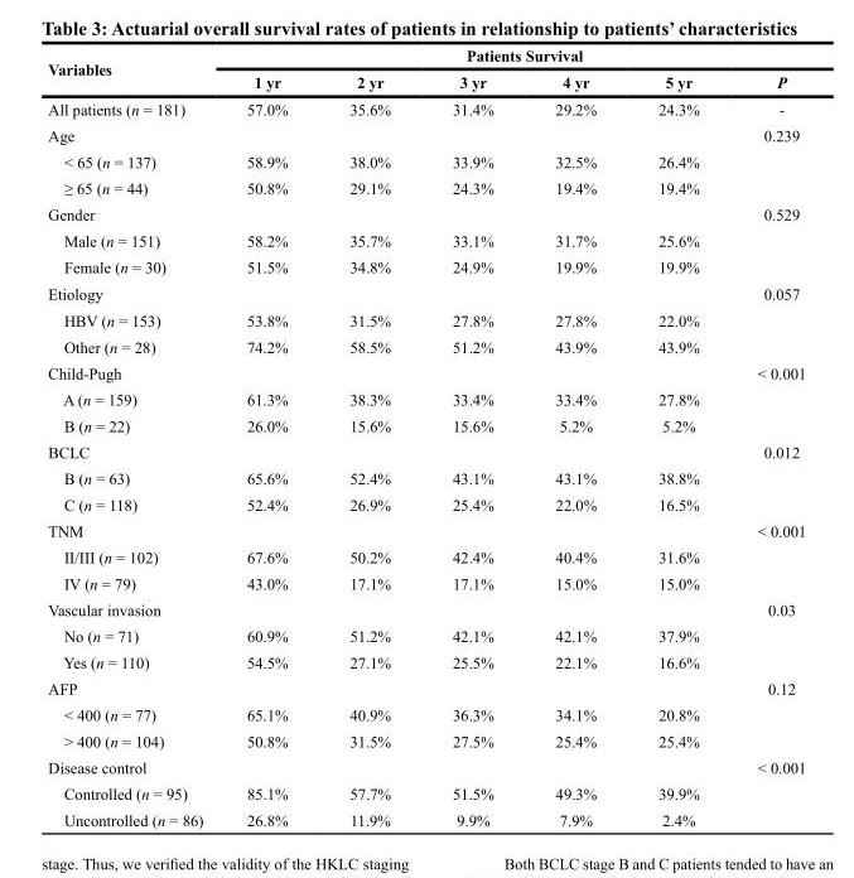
<table><thead><tr><td rowspan="2">Variables</td><td colspan="6">Patients Survival</td></tr><tr><td>1 yr</td><td>2 yr</td><td>3 yr</td><td>4 yr</td><td>5 yr</td><td>P</td></tr></thead><tbody><tr><td>All patients (n = 181)</td><td>57.0%</td><td>35.6%</td><td>31.4%</td><td>29.2%</td><td>24.3%</td><td>-</td></tr><tr><td>Age</td><td></td><td></td><td></td><td></td><td></td><td>0.239</td></tr><tr><td>&lt; 65 (n = 137)</td><td>58.9%</td><td>38.0%</td><td>33.9%</td><td>32.5%</td><td>26.4%</td><td></td></tr><tr><td>≥ 65 (n = 44)</td><td>50.8%</td><td>29.1%</td><td>24.3%</td><td>19.4%</td><td>19.4%</td><td></td></tr><tr><td>Gender</td><td></td><td></td><td></td><td></td><td></td><td>0.529</td></tr><tr><td>Male (n = 151)</td><td>58.2%</td><td>35.7%</td><td>33.1%</td><td>31.7%</td><td>25.6%</td><td></td></tr><tr><td>Female (n = 30)</td><td>51.5%</td><td>34.8%</td><td>24.9%</td><td>19.9%</td><td>19.9%</td><td></td></tr><tr><td>Etiology</td><td></td><td></td><td></td><td></td><td></td><td>0.057</td></tr><tr><td>HBV (n = 153)</td><td>53.8%</td><td>31.5%</td><td>27.8%</td><td>27.8%</td><td>22.0%</td><td></td></tr><tr><td>Other (n = 28)</td><td>74.2%</td><td>58.5%</td><td>51.2%</td><td>43.9%</td><td>43.9%</td><td></td></tr><tr><td>Child-Pugh</td><td></td><td></td><td></td><td></td><td></td><td>&lt; 0.001</td></tr><tr><td>A (n = 159)</td><td>61.3%</td><td>38.3%</td><td>33.4%</td><td>33.4%</td><td>27.8%</td><td></td></tr><tr><td>B (n = 22)</td><td>26.0%</td><td>15.6%</td><td>15.6%</td><td>5.2%</td><td>5.2%</td><td></td></tr><tr><td>BCLC</td><td></td><td></td><td></td><td></td><td></td><td>0.012</td></tr><tr><td>B (n = 63)</td><td>65.6%</td><td>52.4%</td><td>43.1%</td><td>43.1%</td><td>38.8%</td><td></td></tr><tr><td>C (n = 118)</td><td>52.4%</td><td>26.9%</td><td>25.4%</td><td>22.0%</td><td>16.5%</td><td></td></tr><tr><td>TNM</td><td></td><td></td><td></td><td></td><td></td><td>&lt; 0.001</td></tr><tr><td>II/III (n = 102)</td><td>67.6%</td><td>50.2%</td><td>42.4%</td><td>40.4%</td><td>31.6%</td><td></td></tr><tr><td>IV (n = 79)</td><td>43.0%</td><td>17.1%</td><td>17.1%</td><td>15.0%</td><td>15.0%</td><td></td></tr><tr><td>Vascular invasion</td><td></td><td></td><td></td><td></td><td></td><td>0.03</td></tr><tr><td>No (n = 71)</td><td>60.9%</td><td>51.2%</td><td>42.1%</td><td>42.1%</td><td>37.9%</td><td></td></tr><tr><td>Yes (n = 110)</td><td>54.5%</td><td>27.1%</td><td>25.5%</td><td>22.1%</td><td>16.6%</td><td></td></tr><tr><td>AFP</td><td></td><td></td><td></td><td></td><td></td><td>0.12</td></tr><tr><td>&lt; 400 (n = 77)</td><td>65.1%</td><td>40.9%</td><td>36.3%</td><td>34.1%</td><td>20.8%</td><td></td></tr><tr><td>&gt; 400 (n = 104)</td><td>50.8%</td><td>31.5%</td><td>27.5%</td><td>25.4%</td><td>25.4%</td><td></td></tr><tr><td>Disease control</td><td></td><td></td><td></td><td></td><td></td><td>&lt; 0.001</td></tr><tr><td>Controlled (n = 95)</td><td>85.1%</td><td>57.7%</td><td>51.5%</td><td>49.3%</td><td>39.9%</td><td></td></tr><tr><td>Uncontrolled (n = 86)</td><td>26.8%</td><td>11.9%</td><td>9.9%</td><td>7.9%</td><td>2.4%</td><td></td></tr></tbody></table>